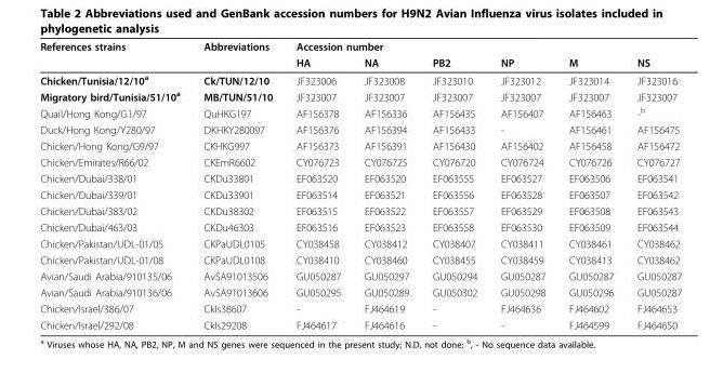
<table><thead><tr><td rowspan="2">References strains</td><td rowspan="2">Abbreviations</td><td colspan="6">Accession number</td></tr><tr><td>HA</td><td>NA</td><td>PB2</td><td>NP</td><td>M</td><td>NS</td></tr></thead><tbody><tr><td>Chicken/Tunisia/12/10<sup>a</sup></td><td>Ck/TUN/12/10</td><td>JF323006</td><td>JF323008</td><td>JF323010</td><td>JF323012</td><td>JF323014</td><td>JF323016</td></tr><tr><td>Migratory bird/Tunisia/51/10<sup>a</sup></td><td>MB/TUN/51/10</td><td>JF323007</td><td>JF323007</td><td>JF323007</td><td>JF323007</td><td>JF323007</td><td>JF323007</td></tr><tr><td>Quail/Hong Kong/G1/97</td><td>QuHKG197</td><td>AF156378</td><td>AF156336</td><td>AF156435</td><td>AF156407</td><td>AF156463</td><td>-<sup>b</sup></td></tr><tr><td>Duck/Hong Kong/Y280/97</td><td>DKHKY280097</td><td>AF156376</td><td>AF156394</td><td>AF156433</td><td>-</td><td>AF156461</td><td>AF156475</td></tr><tr><td>Chicken/Hong Kong/G9/97</td><td>CKHKG997</td><td>AF156373</td><td>AF156391</td><td>AF156430</td><td>AF156402</td><td>AF156458</td><td>AF156472</td></tr><tr><td>Chicken/Emirates/R66/02</td><td>CKEmR6602</td><td>CY076723</td><td>CY076725</td><td>CY076720</td><td>CY076724</td><td>CY076726</td><td>CY076727</td></tr><tr><td>Chicken/Dubai/338/01</td><td>CKDu33801</td><td>EF063520</td><td>EF063520</td><td>EF063555</td><td>EF063527</td><td>EF063506</td><td>EF063541</td></tr><tr><td>Chicken/Dubai/339/01</td><td>CKDu33901</td><td>EF063514</td><td>EF063521</td><td>EF063556</td><td>EF063528</td><td>EF063507</td><td>EF063542</td></tr><tr><td>Chicken/Dubai/383/02</td><td>CKDu38302</td><td>EF063515</td><td>EF063522</td><td>EF063557</td><td>EF063529</td><td>EF063508</td><td>EF063543</td></tr><tr><td>Chicken/Dubai/463/03</td><td>CKDu46303</td><td>EF063516</td><td>EF063523</td><td>EF063558</td><td>EF063530</td><td>EF063509</td><td>EF063544</td></tr><tr><td>Chicken/Pakistan/UDL-01/05</td><td>CKPaUDL0105</td><td>CY038458</td><td>CY038412</td><td>CY038407</td><td>CY038411</td><td>CY038461</td><td>CY038462</td></tr><tr><td>Chicken/Pakistan/UDL-01/08</td><td>CKPaUDL0108</td><td>CY038410</td><td>CY038460</td><td>CY038455</td><td>CY038459</td><td>CY038413</td><td>CY038462</td></tr><tr><td>Avian/Saudi Arabia/910135/06</td><td>AvSA91013506</td><td>GU050287</td><td>GU050297</td><td>GU050294</td><td>GU050287</td><td>GU050287</td><td>GU050287</td></tr><tr><td>Avian/Saudi Arabia/910136/06</td><td>AvSA91013606</td><td>GU050295</td><td>GU050289</td><td>GU050302</td><td>GU050298</td><td>GU050296</td><td>GU050287</td></tr><tr><td>Chicken/Israel/386/07</td><td>CkIs38607</td><td>-</td><td>FJ464619</td><td>-</td><td>FJ464636</td><td>FJ464602</td><td>FJ464653</td></tr><tr><td>Chicken/Israel/292/08</td><td>CkIs29208</td><td>FJ464617</td><td>FJ464616</td><td>-</td><td>-</td><td>FJ464599</td><td>FJ464650</td></tr></tbody></table>